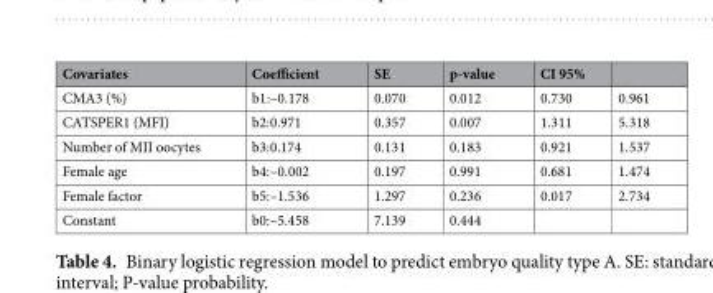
<table><thead><tr><td>Covariates</td><td>Coefficient</td><td>SE</td><td>p-value</td><td>CI 95%</td><td></td></tr></thead><tbody><tr><td>CMA3 (%)</td><td>b1:–0.178</td><td>0.070</td><td>0.012</td><td>0.730</td><td>0.961</td></tr><tr><td>CATSPER1 (MFI)</td><td>b2:0.971</td><td>0.357</td><td>0.007</td><td>1.311</td><td>5.318</td></tr><tr><td>Number of MII oocytes</td><td>b3:0.174</td><td>0.131</td><td>0.183</td><td>0.921</td><td>1.537</td></tr><tr><td>Female age</td><td>b4:–0.002</td><td>0.197</td><td>0.991</td><td>0.681</td><td>1.474</td></tr><tr><td>Female factor</td><td>b5:–1.536</td><td>1.297</td><td>0.236</td><td>0.017</td><td>2.734</td></tr><tr><td>Constant</td><td>b0:–5.458</td><td>7.139</td><td>0.444</td><td></td><td></td></tr></tbody></table>